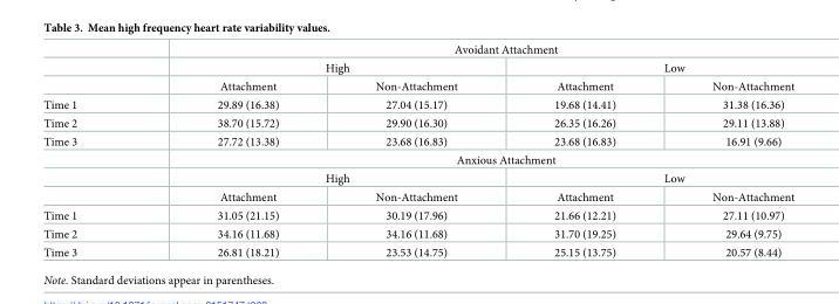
<table><thead><tr><td rowspan="3"></td><td colspan="4">Avoidant Attachment</td></tr><tr><td colspan="2">High</td><td colspan="2">Low</td></tr><tr><td>Attachment</td><td>Non-Attachment</td><td>Attachment</td><td>Non-Attachment</td></tr></thead><tbody><tr><td>Time 1</td><td>29.89 (16.38)</td><td>27.04 (15.17)</td><td>19.68 (14.41)</td><td>31.38 (16.36)</td></tr><tr><td>Time 2</td><td>38.70 (15.72)</td><td>29.90 (16.30)</td><td>26.35 (16.26)</td><td>29.11 (13.88)</td></tr><tr><td rowspan="4">Time 3</td><td>27.72 (13.38)</td><td>23.68 (16.83)</td><td>23.68 (16.83)</td><td>16.91 (9.66)</td></tr><tr><td colspan="4">Anxious Attachment</td></tr><tr><td colspan="2">High</td><td colspan="2">Low</td></tr><tr><td>Attachment</td><td>Non-Attachment</td><td>Attachment</td><td>Non-Attachment</td></tr><tr><td>Time 1</td><td>31.05 (21.15)</td><td>30.19 (17.96)</td><td>21.66 (12.21)</td><td>27.11 (10.97)</td></tr><tr><td>Time 2</td><td>34.16 (11.68)</td><td>34.16 (11.68)</td><td>31.70 (19.25)</td><td>29.64 (9.75)</td></tr><tr><td>Time 3</td><td>26.81 (18.21)</td><td>23.53 (14.75)</td><td>25.15 (13.75)</td><td>20.57 (8.44)</td></tr></tbody></table>